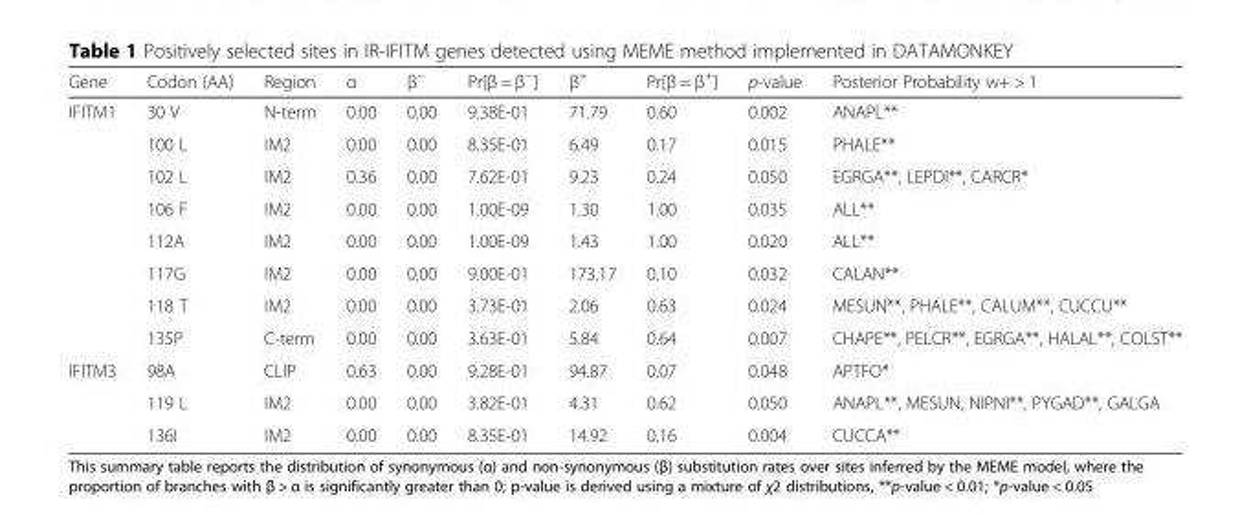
<table><thead><tr><td>Gene</td><td>Codon (AA)</td><td>Region</td><td>α</td><td>β<sup>−</sup></td><td>Pr[β = β<sup>−</sup>]</td><td>β<sup>+</sup></td><td>Pr[β = β<sup>+</sup>]</td><td>p-value</td><td>Posterior Probability w+ &gt; 1</td></tr></thead><tbody><tr><td rowspan="8">IFITM1</td><td>30 V</td><td>N-term</td><td>0.00</td><td>0.00</td><td>9.38E-01</td><td>71.79</td><td>0.60</td><td>0.002</td><td>ANAPL**</td></tr><tr><td>100 L</td><td>IM2</td><td>0.00</td><td>0.00</td><td>8.35E-01</td><td>6.49</td><td>0.17</td><td>0.015</td><td>PHALE**</td></tr><tr><td>102 L</td><td>IM2</td><td>0.36</td><td>0.00</td><td>7.62E-01</td><td>9.23</td><td>0.24</td><td>0.050</td><td>EGRGA**, LEPDI**, CARCR*</td></tr><tr><td>106 F</td><td>IM2</td><td>0.00</td><td>0.00</td><td>1.00E-09</td><td>1.30</td><td>1.00</td><td>0.035</td><td>ALL**</td></tr><tr><td>112A</td><td>IM2</td><td>0.00</td><td>0.00</td><td>1.00E-09</td><td>1.43</td><td>1.00</td><td>0.020</td><td>ALL**</td></tr><tr><td>117G</td><td>IM2</td><td>0.00</td><td>0.00</td><td>9.00E-01</td><td>173.17</td><td>0.10</td><td>0.032</td><td>CALAN**</td></tr><tr><td>118 T</td><td>IM2</td><td>0.00</td><td>0.00</td><td>3.73E-01</td><td>2.06</td><td>0.63</td><td>0.024</td><td>MESUN**, PHALE**, CALUM**, CUCCU**</td></tr><tr><td>135P</td><td>C-term</td><td>0.00</td><td>0.00</td><td>3.63E-01</td><td>5.84</td><td>0.64</td><td>0.007</td><td>CHAPE**, PELCR**, EGRGA**, HALAL**, COLST**</td></tr><tr><td rowspan="3">IFITM3</td><td>98A</td><td>CLIP</td><td>0.63</td><td>0.00</td><td>9.28E-01</td><td>94.87</td><td>0.07</td><td>0.048</td><td>APTFO*</td></tr><tr><td>119 L</td><td>IM2</td><td>0.00</td><td>0.00</td><td>3.82E-01</td><td>4.31</td><td>0.62</td><td>0.050</td><td>ANAPL**, MESUN, NIPNI**, PYGAD**, GALGA</td></tr><tr><td>136I</td><td>IM2</td><td>0.00</td><td>0.00</td><td>8.35E-01</td><td>14.92</td><td>0.16</td><td>0.004</td><td>CUCCA**</td></tr></tbody></table>